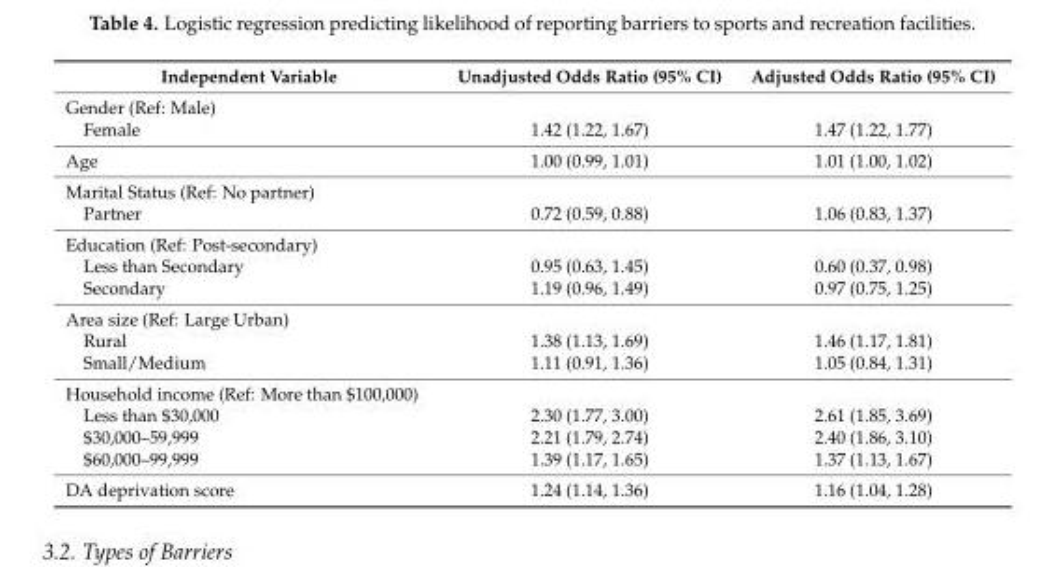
<table><thead><tr><td>Independent Variable</td><td>Unadjusted Odds Ratio (95% CI)</td><td>Adjusted Odds Ratio (95% CI)</td></tr></thead><tbody><tr><td colspan="3">Gender (Ref: Male)</td></tr><tr><td>Female</td><td>1.42 (1.22, 1.67)</td><td>1.47 (1.22, 1.77)</td></tr><tr><td>Age</td><td>1.00 (0.99, 1.01)</td><td>1.01 (1.00, 1.02)</td></tr><tr><td colspan="3">Marital Status (Ref: No partner)</td></tr><tr><td>Partner</td><td>0.72 (0.59, 0.88)</td><td>1.06 (0.83, 1.37)</td></tr><tr><td colspan="3">Education (Ref: Post-secondary)</td></tr><tr><td>Less than Secondary</td><td>0.95 (0.63, 1.45)</td><td>0.60 (0.37, 0.98)</td></tr><tr><td>Secondary</td><td>1.19 (0.96, 1.49)</td><td>0.97 (0.75, 1.25)</td></tr><tr><td colspan="3">Area size (Ref: Large Urban)</td></tr><tr><td>Rural</td><td>1.38 (1.13, 1.69)</td><td>1.46 (1.17, 1.81)</td></tr><tr><td>Small/Medium</td><td>1.11 (0.91, 1.36)</td><td>1.05 (0.84, 1.31)</td></tr><tr><td colspan="3">Household income (Ref: More than $100,000)</td></tr><tr><td>Less than $30,000</td><td>2.30 (1.77, 3.00)</td><td>2.61 (1.85, 3.69)</td></tr><tr><td>$30,000–59,999</td><td>2.21 (1.79, 2.74)</td><td>2.40 (1.86, 3.10)</td></tr><tr><td>$60,000–99,999</td><td>1.39 (1.17, 1.65)</td><td>1.37 (1.13, 1.67)</td></tr><tr><td>DA deprivation score</td><td>1.24 (1.14, 1.36)</td><td>1.16 (1.04, 1.28)</td></tr></tbody></table>